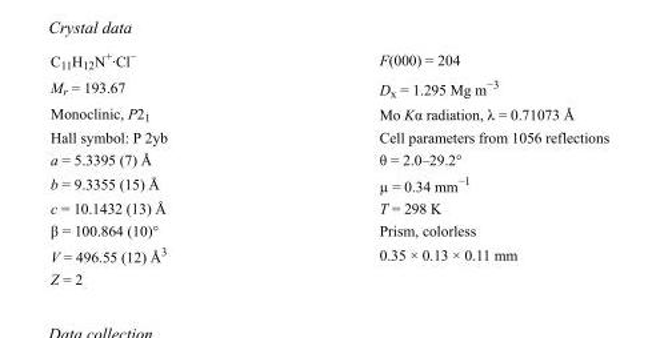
<table><tbody><tr><td>C<sub>11</sub>H<sub>12</sub>N<sup>+</sup>·Cl<sup>−</sup></td><td>F(000) = 204</td></tr><tr><td>M<sub>r</sub> = 193.67</td><td>D<sub>x</sub> = 1.295 Mg m<sup>−3</sup></td></tr><tr><td>Monoclinic, P2<sub>1</sub></td><td>Mo Kα radiation, λ = 0.71073 Å</td></tr><tr><td>Hall symbol: P 2yb</td><td>Cell parameters from 1056 reflections</td></tr><tr><td>a = 5.3395 (7) Å</td><td>θ = 2.0–29.2°</td></tr><tr><td>b = 9.3355 (15) Å</td><td>µ = 0.34 mm<sup>−1</sup></td></tr><tr><td>c = 10.1432 (13) Å</td><td>T = 298 K</td></tr><tr><td>β = 100.864 (10)°</td><td>Prism, colorless</td></tr><tr><td>V = 496.55 (12) Å<sup>3</sup></td><td>0.35 × 0.13 × 0.11 mm</td></tr><tr><td>Z = 2</td><td></td></tr></tbody></table>